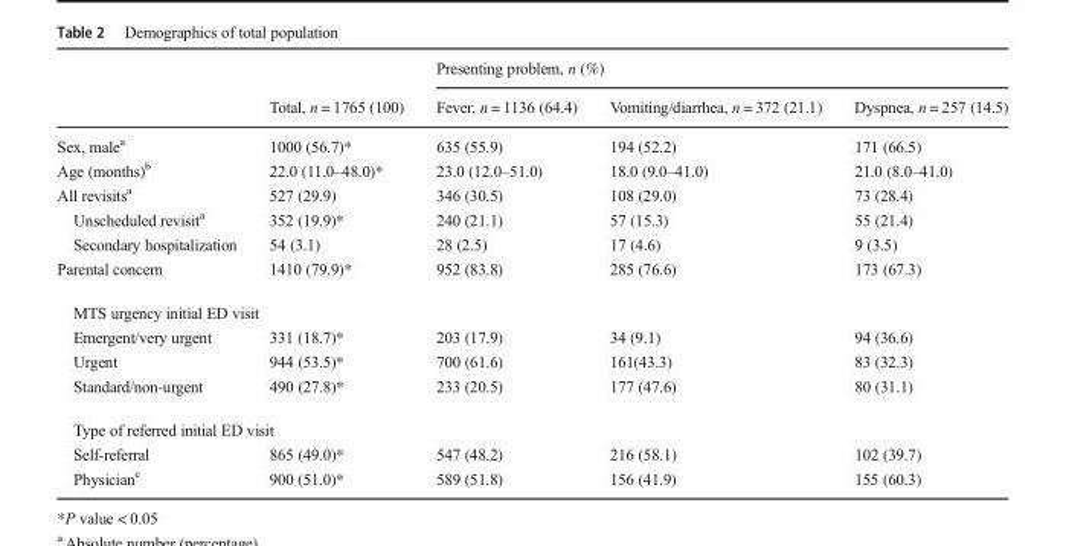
<table><thead><tr><td rowspan="2"></td><td rowspan="2">Total, n = 1765 (100)</td><td colspan="3">Presenting problem, n (%)</td></tr><tr><td>Fever, n = 1136 (64.4)</td><td>Vomiting/diarrhea, n = 372 (21.1)</td><td>Dyspnea, n = 257 (14.5)</td></tr></thead><tbody><tr><td>Sex, male<sup>a</sup></td><td>1000 (56.7)*</td><td>635 (55.9)</td><td>194 (52.2)</td><td>171 (66.5)</td></tr><tr><td>Age (months)<sup>b</sup></td><td>22.0 (11.0–48.0)*</td><td>23.0 (12.0–51.0)</td><td>18.0 (9.0–41.0)</td><td>21.0 (8.0–41.0)</td></tr><tr><td>All revisits<sup>a</sup></td><td>527 (29.9)</td><td>346 (30.5)</td><td>108 (29.0)</td><td>73 (28.4)</td></tr><tr><td>Unscheduled revisit<sup>a</sup></td><td>352 (19.9)*</td><td>240 (21.1)</td><td>57 (15.3)</td><td>55 (21.4)</td></tr><tr><td>Secondary hospitalization</td><td>54 (3.1)</td><td>28 (2.5)</td><td>17 (4.6)</td><td>9 (3.5)</td></tr><tr><td>Parental concern</td><td>1410 (79.9)*</td><td>952 (83.8)</td><td>285 (76.6)</td><td>173 (67.3)</td></tr><tr><td colspan="5">MTS urgency initial ED visit</td></tr><tr><td>Emergent/very urgent</td><td>331 (18.7)*</td><td>203 (17.9)</td><td>34 (9.1)</td><td>94 (36.6)</td></tr><tr><td>Urgent</td><td>944 (53.5)*</td><td>700 (61.6)</td><td>161(43.3)</td><td>83 (32.3)</td></tr><tr><td>Standard/non-urgent</td><td>490 (27.8)*</td><td>233 (20.5)</td><td>177 (47.6)</td><td>80 (31.1)</td></tr><tr><td colspan="5">Type of referred initial ED visit</td></tr><tr><td>Self-referral</td><td>865 (49.0)*</td><td>547 (48.2)</td><td>216 (58.1)</td><td>102 (39.7)</td></tr><tr><td>Physician<sup>c</sup></td><td>900 (51.0)*</td><td>589 (51.8)</td><td>156 (41.9)</td><td>155 (60.3)</td></tr></tbody></table>